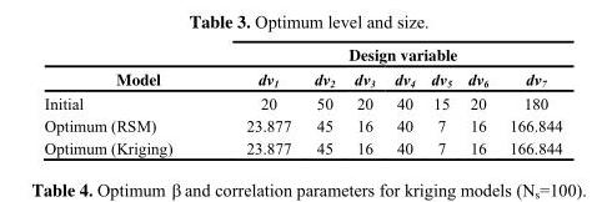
<table><thead><tr><td rowspan="2">Model</td><td colspan="7">Design variable</td></tr><tr><td>dv<sub>1</sub></td><td>dv<sub>2</sub></td><td>dv<sub>3</sub></td><td>dv<sub>4</sub></td><td>dv<sub>5</sub></td><td>dv<sub>6</sub></td><td>dv<sub>7</sub></td></tr></thead><tbody><tr><td>Initial</td><td>20</td><td>50</td><td>20</td><td>40</td><td>15</td><td>20</td><td>180</td></tr><tr><td>Optimum (RSM)</td><td>23.877</td><td>45</td><td>16</td><td>40</td><td>7</td><td>16</td><td>166.844</td></tr><tr><td>Optimum (Kriging)</td><td>23.877</td><td>45</td><td>16</td><td>40</td><td>7</td><td>16</td><td>166.844</td></tr></tbody></table>